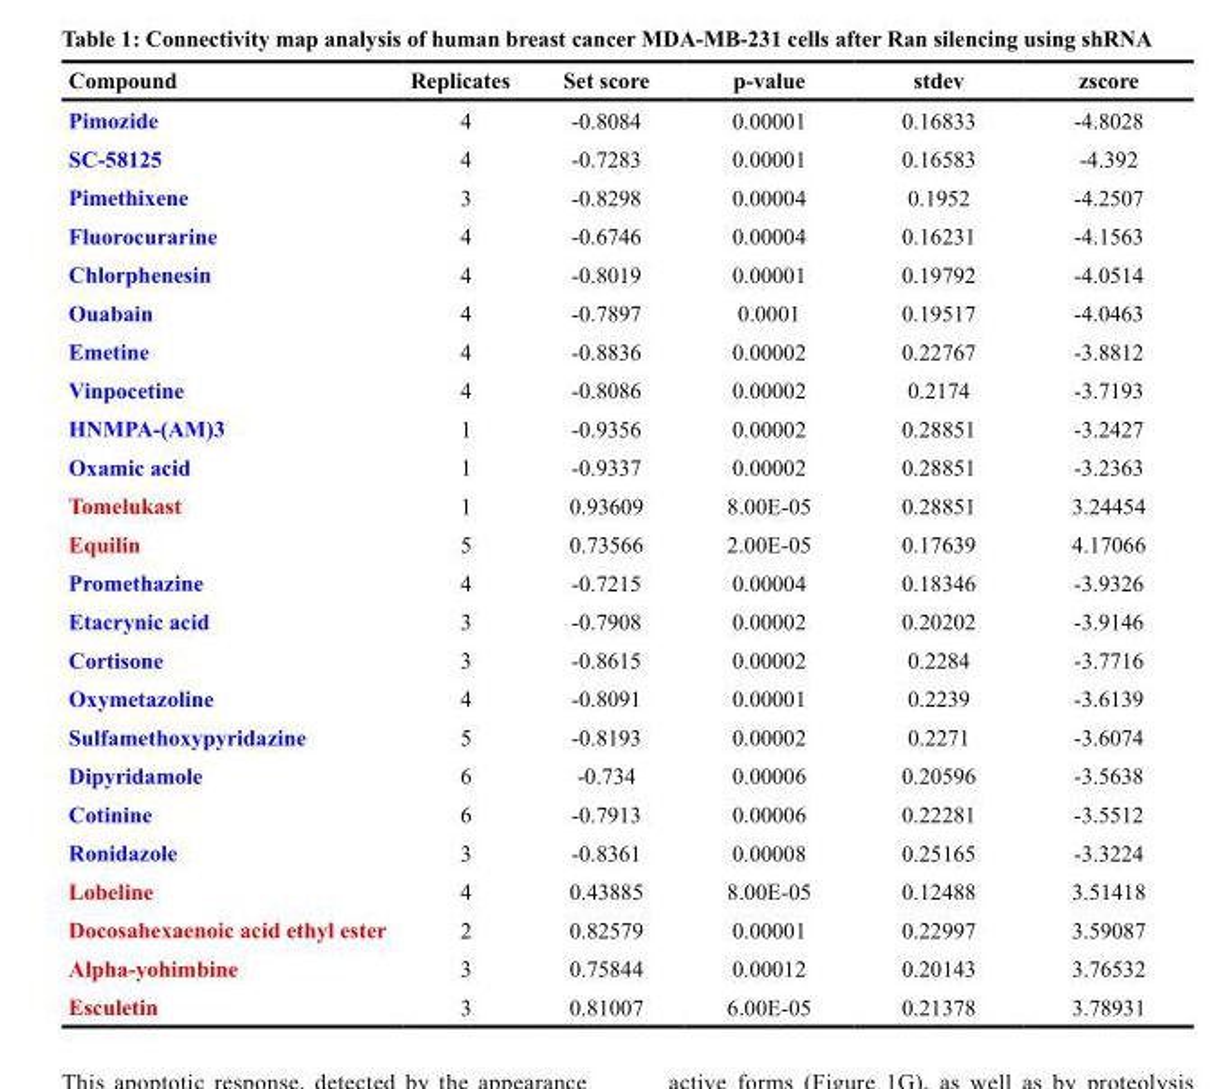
<table><thead><tr><td>Compound</td><td>Replicates</td><td>Set score</td><td>p-value</td><td>stdev</td><td>zscore</td></tr></thead><tbody><tr><td>Pimozide</td><td>4</td><td>-0.8084</td><td>0.00001</td><td>0.16833</td><td>-4.8028</td></tr><tr><td>SC-58125</td><td>4</td><td>-0.7283</td><td>0.00001</td><td>0.16583</td><td>-4.392</td></tr><tr><td>Pimethixene</td><td>3</td><td>-0.8298</td><td>0.00004</td><td>0.1952</td><td>-4.2507</td></tr><tr><td>Fluorocurarine</td><td>4</td><td>-0.6746</td><td>0.00004</td><td>0.16231</td><td>-4.1563</td></tr><tr><td>Chlorphenesin</td><td>4</td><td>-0.8019</td><td>0.00001</td><td>0.19792</td><td>-4.0514</td></tr><tr><td>Ouabain</td><td>4</td><td>-0.7897</td><td>0.0001</td><td>0.19517</td><td>-4.0463</td></tr><tr><td>Emetine</td><td>4</td><td>-0.8836</td><td>0.00002</td><td>0.22767</td><td>-3.8812</td></tr><tr><td>Vinpocetine</td><td>4</td><td>-0.8086</td><td>0.00002</td><td>0.2174</td><td>-3.7193</td></tr><tr><td>HNMPA-(AM)3</td><td>1</td><td>-0.9356</td><td>0.00002</td><td>0.28851</td><td>-3.2427</td></tr><tr><td>Oxamic acid</td><td>1</td><td>-0.9337</td><td>0.00002</td><td>0.28851</td><td>-3.2363</td></tr><tr><td>Tomelukast</td><td>1</td><td>0.93609</td><td>8.00E-05</td><td>0.28851</td><td>3.24454</td></tr><tr><td>Equilin</td><td>5</td><td>0.73566</td><td>2.00E-05</td><td>0.17639</td><td>4.17066</td></tr><tr><td>Promethazine</td><td>4</td><td>-0.7215</td><td>0.00004</td><td>0.18346</td><td>-3.9326</td></tr><tr><td>Etacrynic acid</td><td>3</td><td>-0.7908</td><td>0.00002</td><td>0.20202</td><td>-3.9146</td></tr><tr><td>Cortisone</td><td>3</td><td>-0.8615</td><td>0.00002</td><td>0.2284</td><td>-3.7716</td></tr><tr><td>Oxymetazoline</td><td>4</td><td>-0.8091</td><td>0.00001</td><td>0.2239</td><td>-3.6139</td></tr><tr><td>Sulfamethoxypyridazine</td><td>5</td><td>-0.8193</td><td>0.00002</td><td>0.2271</td><td>-3.6074</td></tr><tr><td>Dipyridamole</td><td>6</td><td>-0.734</td><td>0.00006</td><td>0.20596</td><td>-3.5638</td></tr><tr><td>Cotinine</td><td>6</td><td>-0.7913</td><td>0.00006</td><td>0.22281</td><td>-3.5512</td></tr><tr><td>Ronidazole</td><td>3</td><td>-0.8361</td><td>0.00008</td><td>0.25165</td><td>-3.3224</td></tr><tr><td>Lobeline</td><td>4</td><td>0.43885</td><td>8.00E-05</td><td>0.12488</td><td>3.51418</td></tr><tr><td>Docosahexaenoic acid ethyl ester</td><td>2</td><td>0.82579</td><td>0.00001</td><td>0.22997</td><td>3.59087</td></tr><tr><td>Alpha-yohimbine</td><td>3</td><td>0.75844</td><td>0.00012</td><td>0.20143</td><td>3.76532</td></tr><tr><td>Esculetin</td><td>3</td><td>0.81007</td><td>6.00E-05</td><td>0.21378</td><td>3.78931</td></tr></tbody></table>